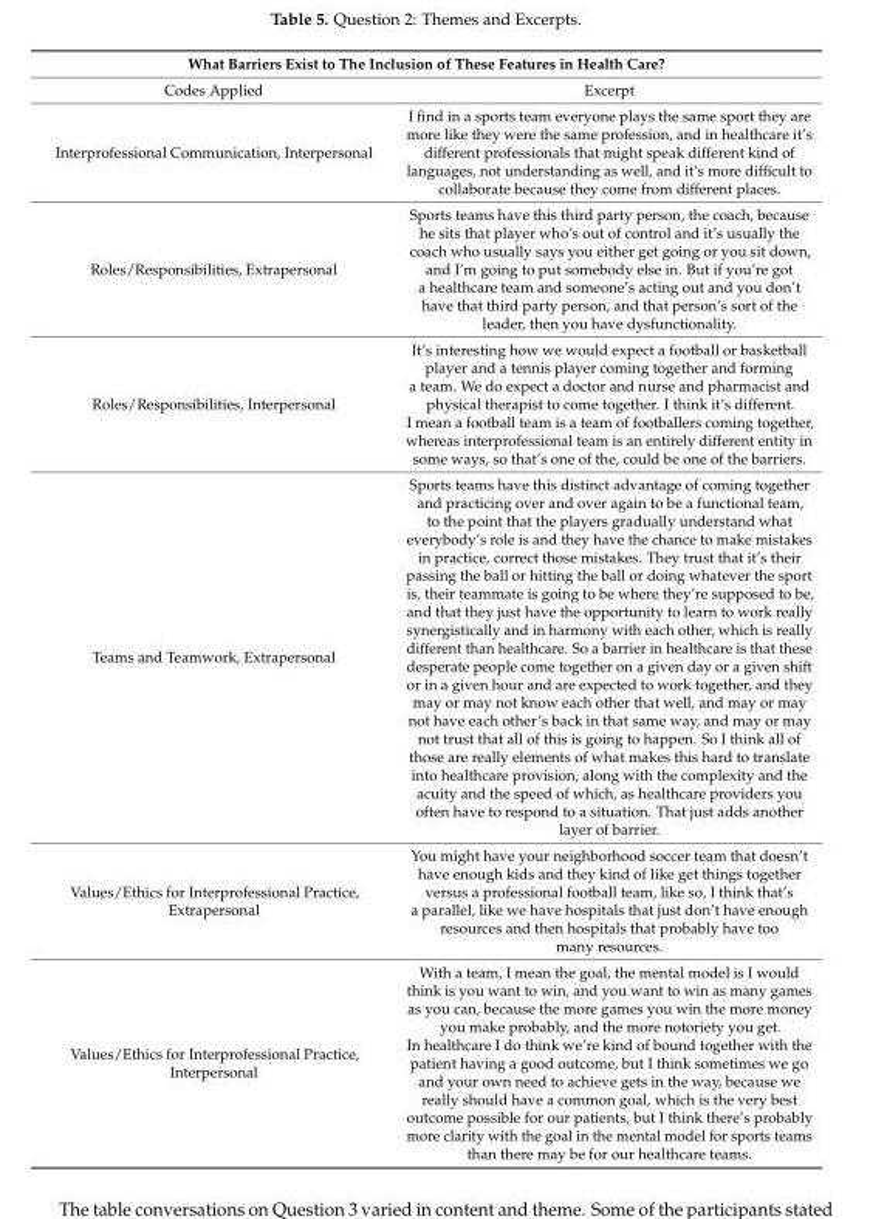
<table><thead><tr><td colspan="2">What Barriers Exist to The Inclusion of These Features in Health Care?</td></tr><tr><td>Codes Applied</td><td>Excerpt</td></tr></thead><tbody><tr><td>Interprofessional Communication, Interpersonal</td><td>I find in a sports team everyone plays the same sport they are more like they were the same profession, and in healthcare it’s different professionals that might speak different kind of languages, not understanding as well, and it’s more difficult to collaborate because they come from different places.</td></tr><tr><td>Roles/Responsibilities, Extrapersonal</td><td>Sports teams have this third party person, the coach, because he sits that player who’s out of control and it’s usually the coach who usually says you either get going or you sit down, and I’m going to put somebody else in. But if you’re got a healthcare team and someone’s acting out and you don’t have that third party person, and that person’s sort of the leader, then you have dysfunctionality.</td></tr><tr><td>Roles/Responsibilities, Interpersonal</td><td>It’s interesting how we would expect a football or basketball player and a tennis player coming together and forming a team. We do expect a doctor and nurse and pharmacist and physical therapist to come together. I think it’s different. I mean a football team is a team of footballers coming together, whereas interprofessional team is an entirely different entity in some ways, so that’s one of the, could be one of the barriers.</td></tr><tr><td>Teams and Teamwork, Extrapersonal</td><td>Sports teams have this distinct advantage of coming together and practicing over and over again to be a functional team, to the point that the players gradually understand what everybody’s role is and they have the chance to make mistakes in practice, correct those mistakes. They trust that it’s their passing the ball or hitting the ball or doing whatever the sport is, their teammate is going to be where they’re supposed to be, and that they just have the opportunity to learn to work really synergistically and in harmony with each other, which is really different than healthcare. So a barrier in healthcare is that these desperate people come together on a given day or a given shift or in a given hour and are expected to work together, and they may or may not know each other that well, and may or may not have each other’s back in that same way, and may or may not trust that all of this is going to happen. So I think all of those are really elements of what makes this hard to translate into healthcare provision, along with the complexity and the acuity and the speed of which, as healthcare providers you often have to respond to a situation. That just adds another layer of barrier.</td></tr><tr><td>Values/Ethics for Interprofessional Practice, Extrapersonal</td><td>You might have your neighborhood soccer team that doesn’t have enough kids and they kind of like get things together versus a professional football team, like so, I think that’s a parallel, like we have hospitals that just don’t have enough resources and then hospitals that probably have too many resources.</td></tr><tr><td>Values/Ethics for Interprofessional Practice, Interpersonal</td><td>With a team, I mean the goal, the mental model is I would think is you want to win, and you want to win as many games as you can, because the more games you win the more money you make probably, and the more notoriety you get. In healthcare I do think we’re kind of bound together with the patient having a good outcome, but I think sometimes we go and your own need to achieve gets in the way, because we really should have a common goal, which is the very best outcome possible for our patients, but I think there’s probably more clarity with the goal in the mental model for sports teams than there may be for our healthcare teams.</td></tr></tbody></table>